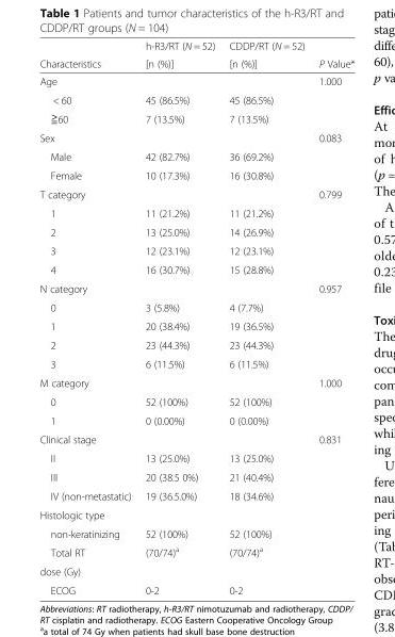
<table><thead><tr><td rowspan="2">Characteristics</td><td rowspan="2">h-R3/RT (N = 52) [n (%)]</td><td rowspan="2">CDDP/RT (N = 52) [n (%)]</td><td rowspan="2">P Value*</td></tr><tr></tr></thead><tbody><tr><td>Age</td><td></td><td></td><td>1.000</td></tr><tr><td>&lt; 60</td><td>45 (86.5%)</td><td>45 (86.5%)</td><td></td></tr><tr><td>≧60</td><td>7 (13.5%)</td><td>7 (13.5%)</td><td></td></tr><tr><td>Sex</td><td></td><td></td><td>0.083</td></tr><tr><td>Male</td><td>42 (82.7%)</td><td>36 (69.2%)</td><td></td></tr><tr><td>Female</td><td>10 (17.3%)</td><td>16 (30.8%)</td><td></td></tr><tr><td>T category</td><td></td><td></td><td>0.799</td></tr><tr><td>1</td><td>11 (21.2%)</td><td>11 (21.2%)</td><td></td></tr><tr><td>2</td><td>13 (25.0%)</td><td>14 (26.9%)</td><td></td></tr><tr><td>3</td><td>12 (23.1%)</td><td>12 (23.1%)</td><td></td></tr><tr><td>4</td><td>16 (30.7%)</td><td>15 (28.8%)</td><td></td></tr><tr><td>N category</td><td></td><td></td><td>0.957</td></tr><tr><td>0</td><td>3 (5.8%)</td><td>4 (7.7%)</td><td></td></tr><tr><td>1</td><td>20 (38.4%)</td><td>19 (36.5%)</td><td></td></tr><tr><td>2</td><td>23 (44.3%)</td><td>23 (44.3%)</td><td></td></tr><tr><td>3</td><td>6 (11.5%)</td><td>6 (11.5%)</td><td></td></tr><tr><td>M category</td><td></td><td></td><td>1.000</td></tr><tr><td>0</td><td>52 (100%)</td><td>52 (100%)</td><td></td></tr><tr><td>1</td><td>0 (0.00%)</td><td>0 (0.00%)</td><td></td></tr><tr><td>Clinical stage</td><td></td><td></td><td>0.831</td></tr><tr><td>II</td><td>13 (25.0%)</td><td>13 (25.0%)</td><td></td></tr><tr><td>III</td><td>20 (38.5 0%)</td><td>21 (40.4%)</td><td></td></tr><tr><td>IV (non-metastatic)</td><td>19 (36.5.0%)</td><td>18 (34.6%)</td><td></td></tr><tr><td colspan="4">Histologic type</td></tr><tr><td>non-keratinizing</td><td>52 (100%)</td><td>52 (100%)</td><td></td></tr><tr><td>Total RT</td><td>(70/74)<sup>a</sup></td><td>(70/74)<sup>a</sup></td><td></td></tr><tr><td colspan="4">dose (Gy)</td></tr><tr><td>ECOG</td><td>0-2</td><td>0-2</td><td></td></tr></tbody></table>